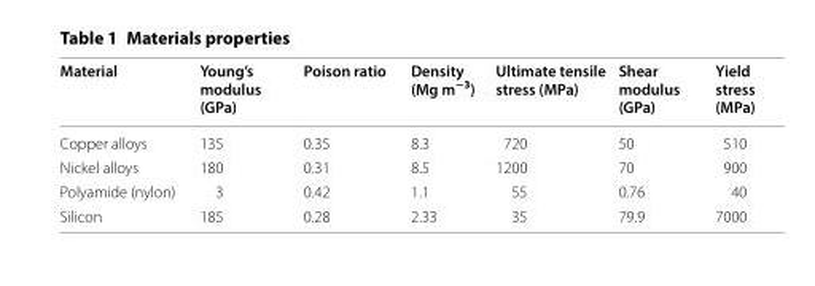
<table><thead><tr><td>Material</td><td>Young’s modulus (GPa)</td><td>Poison ratio</td><td>Density (Mg m<sup>−3</sup>)</td><td>Ultimate tensile stress (MPa)</td><td>Shear modulus (GPa)</td><td>Yield stress (MPa)</td></tr></thead><tbody><tr><td>Copper alloys</td><td>135</td><td>0.35</td><td>8.3</td><td>720</td><td>50</td><td>510</td></tr><tr><td>Nickel alloys</td><td>180</td><td>0.31</td><td>8.5</td><td>1200</td><td>70</td><td>900</td></tr><tr><td>Polyamide (nylon)</td><td>3</td><td>0.42</td><td>1.1</td><td>55</td><td>0.76</td><td>40</td></tr><tr><td>Silicon</td><td>185</td><td>0.28</td><td>2.33</td><td>35</td><td>79.9</td><td>7000</td></tr></tbody></table>